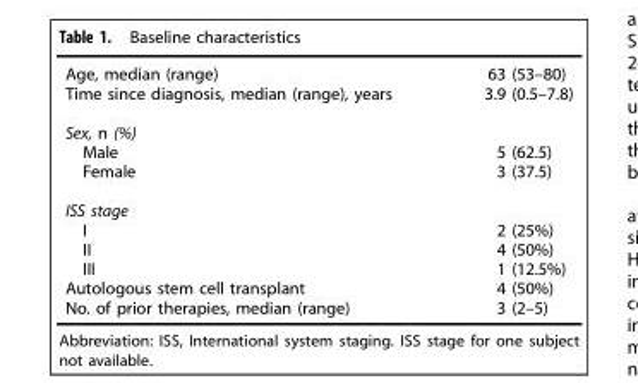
<table><tbody><tr><td>Age, median (range)</td><td>63 (53–80)</td></tr><tr><td>Time since diagnosis, median (range), years</td><td>3.9 (0.5–7.8)</td></tr><tr><td colspan="2">Sex, n (%)</td></tr><tr><td>Male</td><td>5 (62.5)</td></tr><tr><td>Female</td><td>3 (37.5)</td></tr><tr><td colspan="2">ISS stage</td></tr><tr><td>I</td><td>2 (25%)</td></tr><tr><td>II</td><td>4 (50%)</td></tr><tr><td>III</td><td>1 (12.5%)</td></tr><tr><td>Autologous stem cell transplant</td><td>4 (50%)</td></tr><tr><td>No. of prior therapies, median (range)</td><td>3 (2–5)</td></tr></tbody></table>